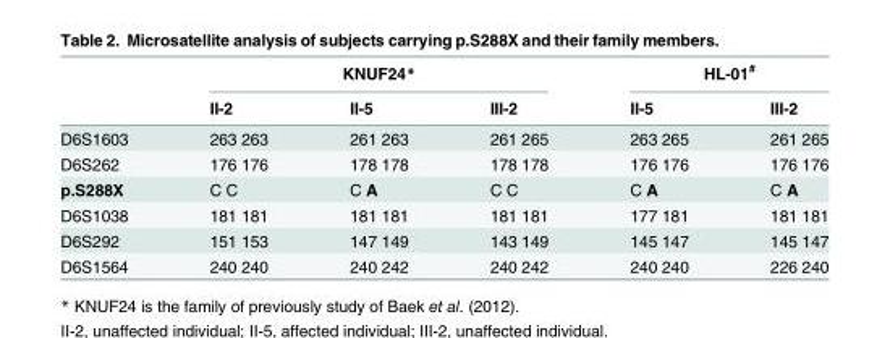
<table><thead><tr><td rowspan="2"></td><td colspan="3">KNUF24*</td><td colspan="2">HL-01<sup>#</sup></td></tr><tr><td>II-2</td><td>II-5</td><td>III-2</td><td>II-5</td><td>III-2</td></tr></thead><tbody><tr><td>D6S1603</td><td>263 263</td><td>261 263</td><td>261 265</td><td>263 265</td><td>261 265</td></tr><tr><td>D6S262</td><td>176 176</td><td>178 178</td><td>178 178</td><td>176 176</td><td>176 176</td></tr><tr><td>p.S288X</td><td>C C</td><td>C A</td><td>C C</td><td>C A</td><td>C A</td></tr><tr><td>D6S1038</td><td>181 181</td><td>181 181</td><td>181 181</td><td>177 181</td><td>181 181</td></tr><tr><td>D6S292</td><td>151 153</td><td>147 149</td><td>143 149</td><td>145 147</td><td>145 147</td></tr><tr><td>D6S1564</td><td>240 240</td><td>240 242</td><td>240 242</td><td>240 240</td><td>226 240</td></tr></tbody></table>